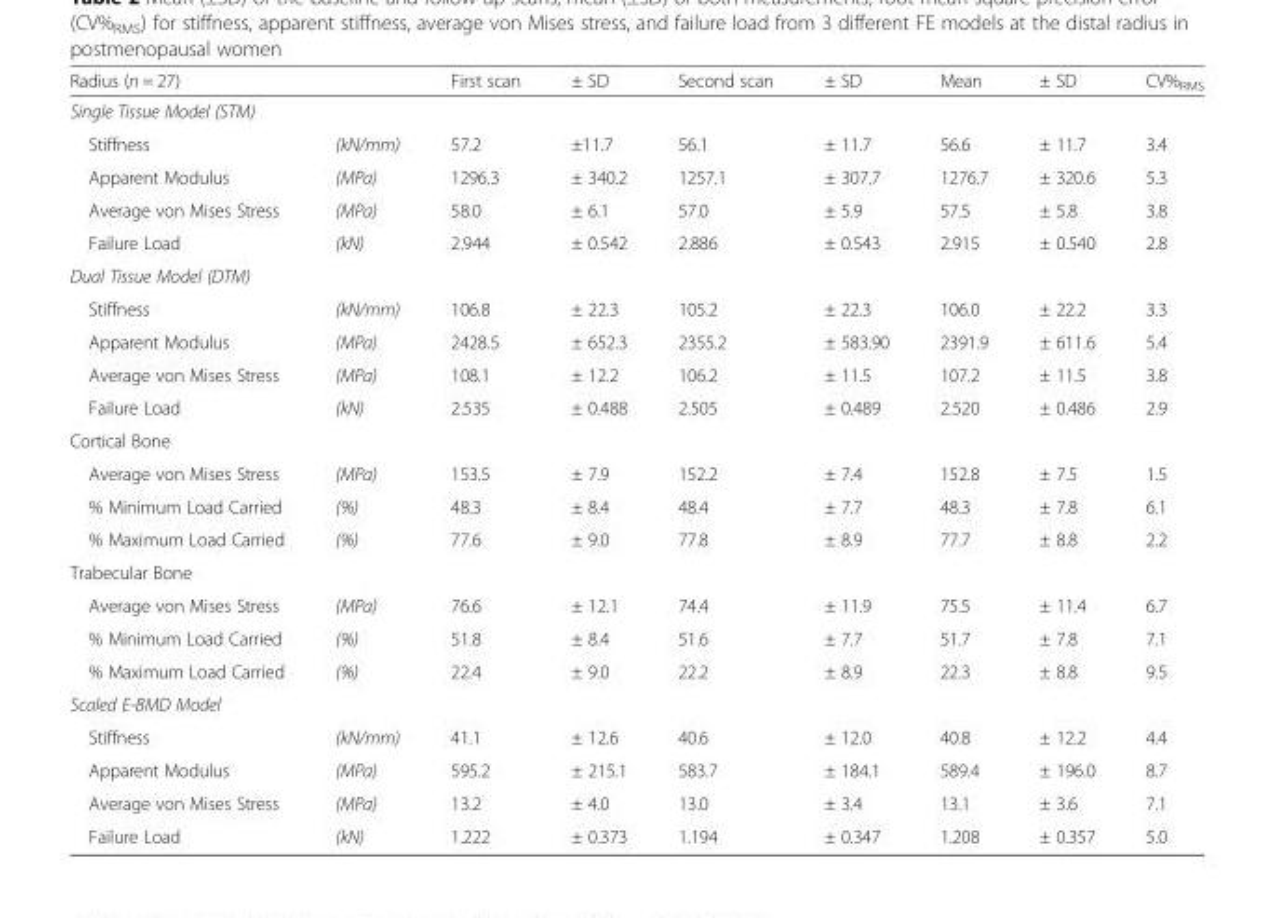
<table><thead><tr><td colspan="2">Radius (n = 27)</td><td>First scan</td><td>± SD</td><td>Second scan</td><td>± SD</td><td>Mean</td><td>± SD</td><td>CV%<sub>RMS</sub></td></tr><tr><td colspan="9">Single Tissue Model (STM)</td></tr><tr><td>Stiffness</td><td>(kN/mm)</td><td>57.2</td><td>±11.7</td><td>56.1</td><td>± 11.7</td><td>56.6</td><td>± 11.7</td><td>3.4</td></tr></thead><tbody><tr><td>Apparent Modulus</td><td>(MPa)</td><td>1296.3</td><td>± 340.2</td><td>1257.1</td><td>± 307.7</td><td>1276.7</td><td>± 320.6</td><td>5.3</td></tr><tr><td>Average von Mises Stress</td><td>(MPa)</td><td>58.0</td><td>± 6.1</td><td>57.0</td><td>± 5.9</td><td>57.5</td><td>± 5.8</td><td>3.8</td></tr><tr><td>Failure Load</td><td>(kN)</td><td>2.944</td><td>± 0.542</td><td>2.886</td><td>± 0.543</td><td>2.915</td><td>± 0.540</td><td>2.8</td></tr><tr><td colspan="9">Dual Tissue Model (DTM)</td></tr><tr><td>Stiffness</td><td>(kN/mm)</td><td>106.8</td><td>± 22.3</td><td>105.2</td><td>± 22.3</td><td>106.0</td><td>± 22.2</td><td>3.3</td></tr><tr><td>Apparent Modulus</td><td>(MPa)</td><td>2428.5</td><td>± 652.3</td><td>2355.2</td><td>± 583.90</td><td>2391.9</td><td>± 611.6</td><td>5.4</td></tr><tr><td>Average von Mises Stress</td><td>(MPa)</td><td>108.1</td><td>± 12.2</td><td>106.2</td><td>± 11.5</td><td>107.2</td><td>± 11.5</td><td>3.8</td></tr><tr><td>Failure Load</td><td>(kN)</td><td>2.535</td><td>± 0.488</td><td>2.505</td><td>± 0.489</td><td>2.520</td><td>± 0.486</td><td>2.9</td></tr><tr><td colspan="9">Cortical Bone</td></tr><tr><td>Average von Mises Stress</td><td>(MPa)</td><td>153.5</td><td>± 7.9</td><td>152.2</td><td>± 7.4</td><td>152.8</td><td>± 7.5</td><td>1.5</td></tr><tr><td>% Minimum Load Carried</td><td>(%)</td><td>48.3</td><td>± 8.4</td><td>48.4</td><td>± 7.7</td><td>48.3</td><td>± 7.8</td><td>6.1</td></tr><tr><td>% Maximum Load Carried</td><td>(%)</td><td>77.6</td><td>± 9.0</td><td>77.8</td><td>± 8.9</td><td>77.7</td><td>± 8.8</td><td>2.2</td></tr><tr><td colspan="9">Trabecular Bone</td></tr><tr><td>Average von Mises Stress</td><td>(MPa)</td><td>76.6</td><td>± 12.1</td><td>74.4</td><td>± 11.9</td><td>75.5</td><td>± 11.4</td><td>6.7</td></tr><tr><td>% Minimum Load Carried</td><td>(%)</td><td>51.8</td><td>± 8.4</td><td>51.6</td><td>± 7.7</td><td>51.7</td><td>± 7.8</td><td>7.1</td></tr><tr><td>% Maximum Load Carried</td><td>(%)</td><td>22.4</td><td>± 9.0</td><td>22.2</td><td>± 8.9</td><td>22.3</td><td>± 8.8</td><td>9.5</td></tr><tr><td colspan="9">Scaled E-BMD Model</td></tr><tr><td>Stiffness</td><td>(kN/mm)</td><td>41.1</td><td>± 12.6</td><td>40.6</td><td>± 12.0</td><td>40.8</td><td>± 12.2</td><td>4.4</td></tr><tr><td>Apparent Modulus</td><td>(MPa)</td><td>595.2</td><td>± 215.1</td><td>583.7</td><td>± 184.1</td><td>589.4</td><td>± 196.0</td><td>8.7</td></tr><tr><td>Average von Mises Stress</td><td>(MPa)</td><td>13.2</td><td>± 4.0</td><td>13.0</td><td>± 3.4</td><td>13.1</td><td>± 3.6</td><td>7.1</td></tr><tr><td>Failure Load</td><td>(kN)</td><td>1.222</td><td>± 0.373</td><td>1.194</td><td>± 0.347</td><td>1.208</td><td>± 0.357</td><td>5.0</td></tr></tbody></table>